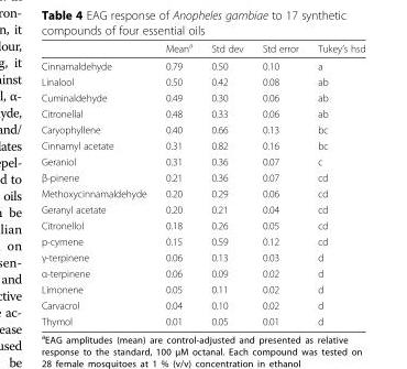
<table><thead><tr><td></td><td>Mean<sup>a</sup></td><td>Std dev</td><td>Std error</td><td>Tukey’s hsd</td></tr></thead><tbody><tr><td>Cinnamaldehyde</td><td>0.79</td><td>0.50</td><td>0.10</td><td>a</td></tr><tr><td>Linalool</td><td>0.50</td><td>0.42</td><td>0.08</td><td>ab</td></tr><tr><td>Cuminaldehyde</td><td>0.49</td><td>0.30</td><td>0.06</td><td>ab</td></tr><tr><td>Citronellal</td><td>0.48</td><td>0.33</td><td>0.06</td><td>ab</td></tr><tr><td>Caryophyllene</td><td>0.40</td><td>0.66</td><td>0.13</td><td>bc</td></tr><tr><td>Cinnamyl acetate</td><td>0.31</td><td>0.82</td><td>0.16</td><td>bc</td></tr><tr><td>Geraniol</td><td>0.31</td><td>0.36</td><td>0.07</td><td>c</td></tr><tr><td>β-pinene</td><td>0.21</td><td>0.36</td><td>0.07</td><td>cd</td></tr><tr><td>Methoxycinnamaldehyde</td><td>0.20</td><td>0.29</td><td>0.06</td><td>cd</td></tr><tr><td>Geranyl acetate</td><td>0.20</td><td>0.21</td><td>0.04</td><td>cd</td></tr><tr><td>Citronellol</td><td>0.18</td><td>0.26</td><td>0.05</td><td>cd</td></tr><tr><td>p-cymene</td><td>0.15</td><td>0.59</td><td>0.12</td><td>cd</td></tr><tr><td>γ-terpinene</td><td>0.06</td><td>0.13</td><td>0.03</td><td>d</td></tr><tr><td>α-terpinene</td><td>0.06</td><td>0.09</td><td>0.02</td><td>d</td></tr><tr><td>Limonene</td><td>0.05</td><td>0.11</td><td>0.02</td><td>d</td></tr><tr><td>Carvacrol</td><td>0.04</td><td>0.10</td><td>0.02</td><td>d</td></tr><tr><td>Thymol</td><td>0.01</td><td>0.05</td><td>0.01</td><td>d</td></tr></tbody></table>